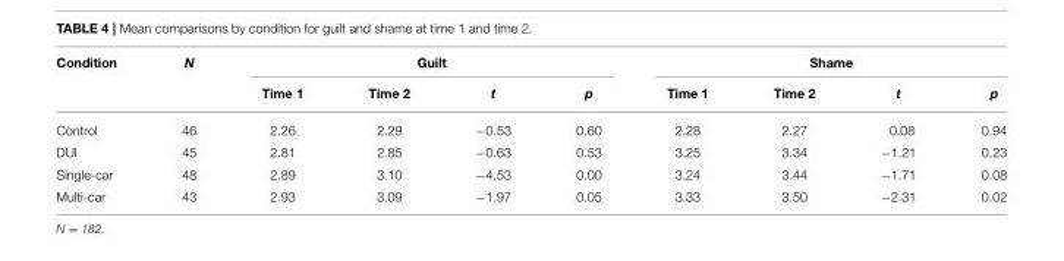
<table><thead><tr><td rowspan="2">Condition</td><td rowspan="2">N</td><td colspan="4">Guilt</td><td colspan="4">Shame</td></tr><tr><td>Time 1</td><td>Time 2</td><td>t</td><td>p</td><td>Time 1</td><td>Time 2</td><td>t</td><td>p</td></tr></thead><tbody><tr><td>Control</td><td>46</td><td>2.26</td><td>2.29</td><td>−0.53</td><td>0.60</td><td>2.28</td><td>2.27</td><td>0.08</td><td>0.94</td></tr><tr><td>DUI</td><td>45</td><td>2.81</td><td>2.85</td><td>−0.63</td><td>0.53</td><td>3.25</td><td>3.34</td><td>−1.21</td><td>0.23</td></tr><tr><td>Single-car</td><td>48</td><td>2.89</td><td>3.10</td><td>−4.53</td><td>0.00</td><td>3.24</td><td>3.44</td><td>−1.71</td><td>0.08</td></tr><tr><td>Multi-car</td><td>43</td><td>2.93</td><td>3.09</td><td>−1.97</td><td>0.05</td><td>3.33</td><td>3.50</td><td>−2.31</td><td>0.02</td></tr></tbody></table>